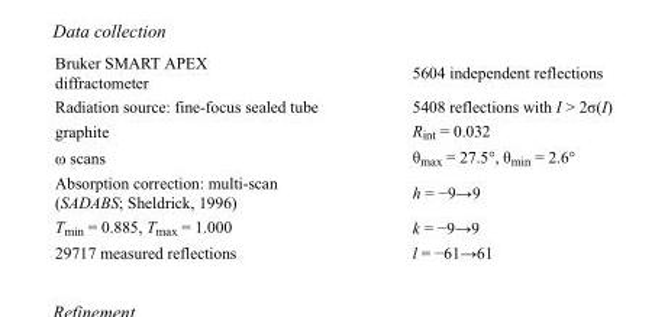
<table><tbody><tr><td>Bruker SMART APEX diffractometer</td><td>5604 independent reflections</td></tr><tr><td>Radiation source: fine-focus sealed tube</td><td>5408 reflections with I &gt; 2σ(I)</td></tr><tr><td>graphite</td><td>R<sub>int</sub> = 0.032</td></tr><tr><td>ω scans</td><td>θ<sub>max</sub> = 27.5°, θ<sub>min</sub> = 2.6°</td></tr><tr><td>Absorption correction: multi-scan (SADABS; Sheldrick, 1996)</td><td>h = −9→9</td></tr><tr><td>T<sub>min</sub> = 0.885, T<sub>max</sub> = 1.000</td><td>k = −9→9</td></tr><tr><td>29717 measured reflections</td><td>l = −61→61</td></tr></tbody></table>